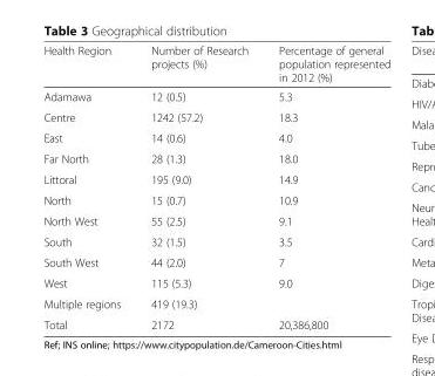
<table><thead><tr><td>Health Region</td><td>Number of Research projects (%)</td><td>Percentage of general population represented in 2012 (%)</td></tr></thead><tbody><tr><td>Adamawa</td><td>12 (0.5)</td><td>5.3</td></tr><tr><td>Centre</td><td>1242 (57.2)</td><td>18.3</td></tr><tr><td>East</td><td>14 (0.6)</td><td>4.0</td></tr><tr><td>Far North</td><td>28 (1.3)</td><td>18.0</td></tr><tr><td>Littoral</td><td>195 (9.0)</td><td>14.9</td></tr><tr><td>North</td><td>15 (0.7)</td><td>10.9</td></tr><tr><td>North West</td><td>55 (2.5)</td><td>9.1</td></tr><tr><td>South</td><td>32 (1.5)</td><td>3.5</td></tr><tr><td>South West</td><td>44 (2.0)</td><td>7</td></tr><tr><td>West</td><td>115 (5.3)</td><td>9.0</td></tr><tr><td>Multiple regions</td><td>419 (19.3)</td><td></td></tr><tr><td>Total</td><td>2172</td><td>20,386,800</td></tr></tbody></table>